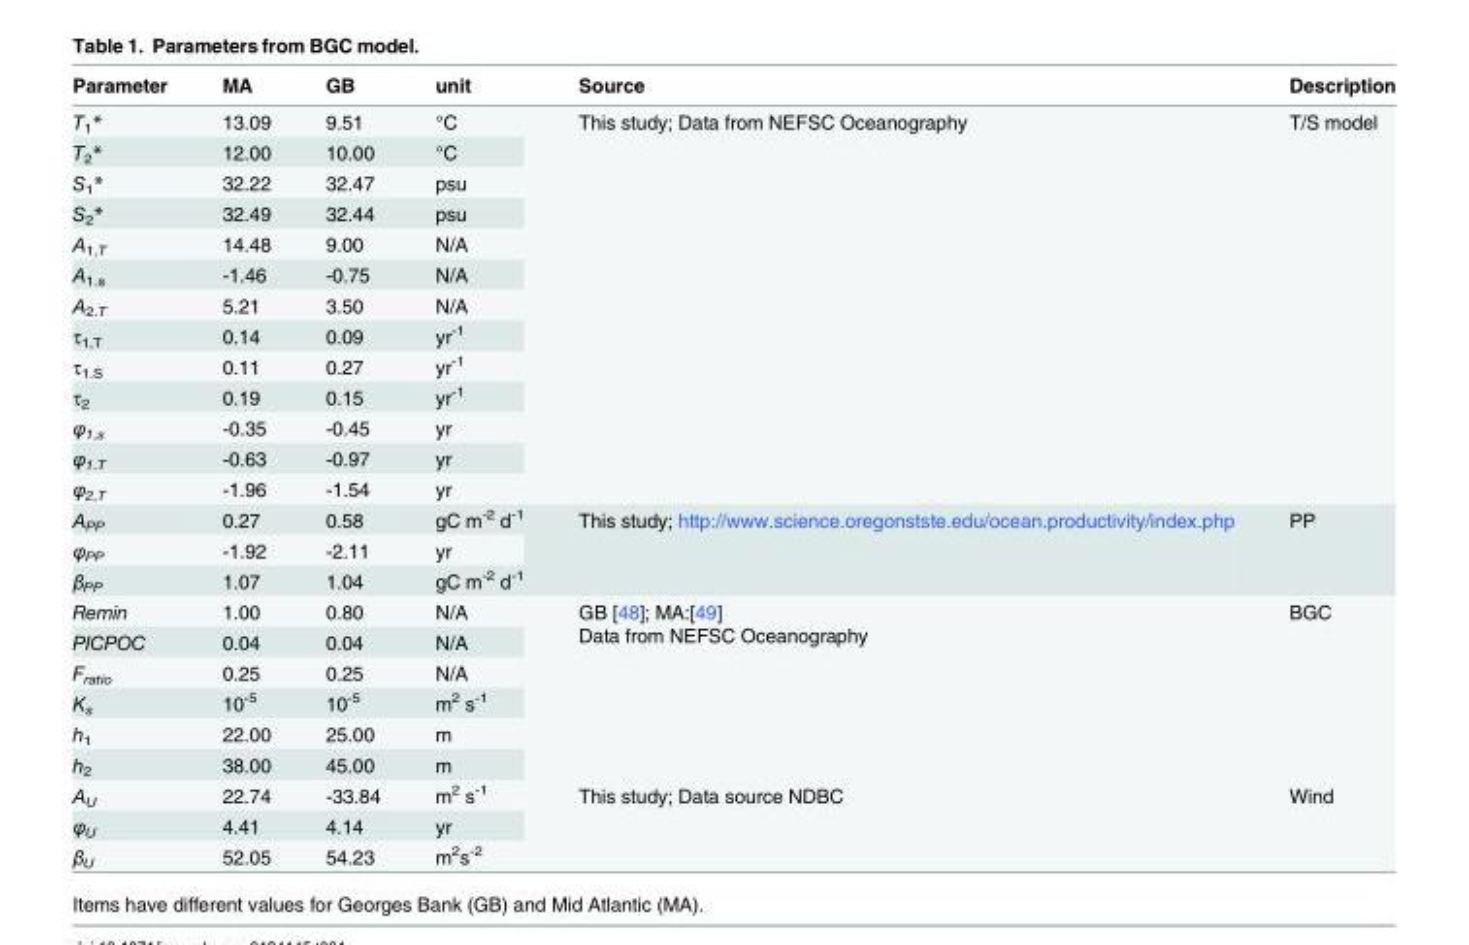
<table><thead><tr><td>Parameter</td><td>MA</td><td>GB</td><td>unit</td><td>Source</td><td>Description</td></tr></thead><tbody><tr><td>T<sub>1</sub>*</td><td>13.09</td><td>9.51</td><td>°C</td><td rowspan="13">This study; Data from NEFSC Oceanography</td><td rowspan="13">T/S model</td></tr><tr><td>T<sub>2</sub>*</td><td>12.00</td><td>10.00</td><td>°C</td></tr><tr><td>S<sub>1</sub>*</td><td>32.22</td><td>32.47</td><td>psu</td></tr><tr><td>S<sub>2</sub>*</td><td>32.49</td><td>32.44</td><td>psu</td></tr><tr><td>A<sub>1,T</sub></td><td>14.48</td><td>9.00</td><td>N/A</td></tr><tr><td>A<sub>1.s</sub></td><td>-1.46</td><td>-0.75</td><td>N/A</td></tr><tr><td>A<sub>2.T</sub></td><td>5.21</td><td>3.50</td><td>N/A</td></tr><tr><td>τ<sub>1,T</sub></td><td>0.14</td><td>0.09</td><td>yr<sup>-1</sup></td></tr><tr><td>τ<sub>1.S</sub></td><td>0.11</td><td>0.27</td><td>yr<sup>-1</sup></td></tr><tr><td>τ<sub>2</sub></td><td>0.19</td><td>0.15</td><td>yr<sup>-1</sup></td></tr><tr><td>φ<sub>1,s</sub></td><td>-0.35</td><td>-0.45</td><td>yr</td></tr><tr><td>φ<sub>1.T</sub></td><td>-0.63</td><td>-0.97</td><td>yr</td></tr><tr><td>φ<sub>2,T</sub></td><td>-1.96</td><td>-1.54</td><td>yr</td></tr><tr><td>A<sub>PP</sub></td><td>0.27</td><td>0.58</td><td>gC m<sup>-2</sup> d<sup>-1</sup></td><td rowspan="3">This study; http://www.science.oregonstste.edu/ocean.productivity/index.php</td><td rowspan="3">PP</td></tr><tr><td>φ<sub>PP</sub></td><td>-1.92</td><td>-2.11</td><td>yr</td></tr><tr><td>β<sub>PP</sub></td><td>1.07</td><td>1.04</td><td>gC m<sup>-2</sup> d<sup>-1</sup></td></tr><tr><td>Remin</td><td>1.00</td><td>0.80</td><td>N/A</td><td rowspan="6">GB [48]; MA:[49] Data from NEFSC Oceanography</td><td rowspan="6">BGC</td></tr><tr><td>PICPOC</td><td>0.04</td><td>0.04</td><td>N/A</td></tr><tr><td>F<sub>ratio</sub></td><td>0.25</td><td>0.25</td><td>N/A</td></tr><tr><td>K<sub>s</sub></td><td>10<sup>-5</sup></td><td>10<sup>-5</sup></td><td>m<sup>2</sup> s<sup>-1</sup></td></tr><tr><td>h<sub>1</sub></td><td>22.00</td><td>25.00</td><td>m</td></tr><tr><td>h<sub>2</sub></td><td>38.00</td><td>45.00</td><td>m</td></tr><tr><td>A<sub>U</sub></td><td>22.74</td><td>-33.84</td><td>m<sup>2</sup> s<sup>-1</sup></td><td rowspan="3">This study; Data source NDBC</td><td rowspan="3">Wind</td></tr><tr><td>φ<sub>U</sub></td><td>4.41</td><td>4.14</td><td>yr</td></tr><tr><td>β<sub>U</sub></td><td>52.05</td><td>54.23</td><td>m<sup>2</sup>s<sup>-2</sup></td></tr></tbody></table>